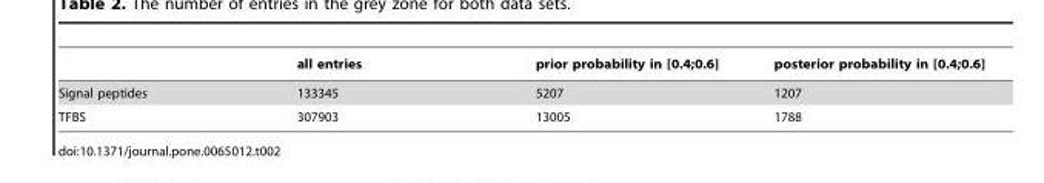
<table><thead><tr><td></td><td>all entries</td><td>prior probability in [0.4;0.6]</td><td>posterior probability in [0.4;0.6]</td></tr></thead><tbody><tr><td>Signal peptides</td><td>133345</td><td>5207</td><td>1207</td></tr><tr><td>TFBS</td><td>307903</td><td>13005</td><td>1788</td></tr></tbody></table>